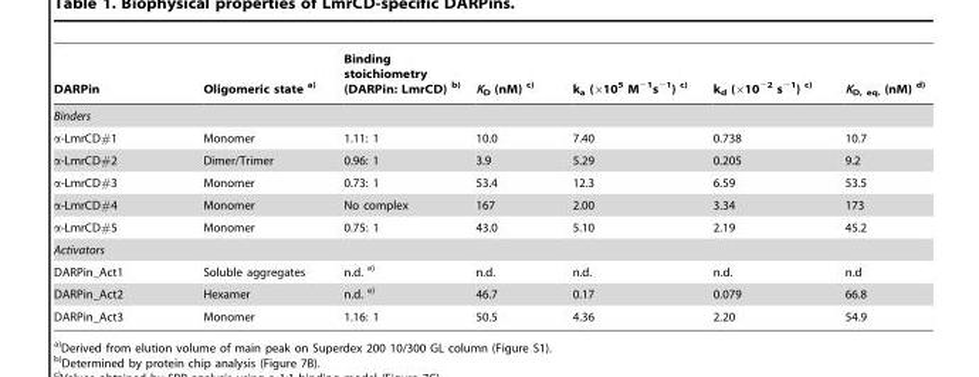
<table><thead><tr><td>DARPin</td><td>Oligomeric state a)</td><td>Binding stoichiometry (DARPin: LmrCD) b)</td><td>K<sub>D</sub> (nM) c)</td><td>k<sub>a</sub> (×10<sup>5</sup> M<sup>−1</sup>s<sup>−1</sup>) c)</td><td>k<sub>d</sub> (×10<sup>−2</sup> s<sup>−1</sup>) c)</td><td>K<sub>D, eq.</sub> (nM) d)</td></tr></thead><tbody><tr><td colspan="7">Binders</td></tr><tr><td>α-LmrCD#1</td><td>Monomer</td><td>1.11: 1</td><td>10.0</td><td>7.40</td><td>0.738</td><td>10.7</td></tr><tr><td>α-LmrCD#2</td><td>Dimer/Trimer</td><td>0.96: 1</td><td>3.9</td><td>5.29</td><td>0.205</td><td>9.2</td></tr><tr><td>α-LmrCD#3</td><td>Monomer</td><td>0.73: 1</td><td>53.4</td><td>12.3</td><td>6.59</td><td>53.5</td></tr><tr><td>α-LmrCD#4</td><td>Monomer</td><td>No complex</td><td>167</td><td>2.00</td><td>3.34</td><td>173</td></tr><tr><td>α-LmrCD#5</td><td>Monomer</td><td>0.75: 1</td><td>43.0</td><td>5.10</td><td>2.19</td><td>45.2</td></tr><tr><td colspan="7">Activators</td></tr><tr><td>DARPin_Act1</td><td>Soluble aggregates</td><td>n.d. e)</td><td>n.d.</td><td>n.d.</td><td>n.d.</td><td>n.d</td></tr><tr><td>DARPin_Act2</td><td>Hexamer</td><td>n.d. e)</td><td>46.7</td><td>0.17</td><td>0.079</td><td>66.8</td></tr><tr><td>DARPin_Act3</td><td>Monomer</td><td>1.16: 1</td><td>50.5</td><td>4.36</td><td>2.20</td><td>54.9</td></tr></tbody></table>